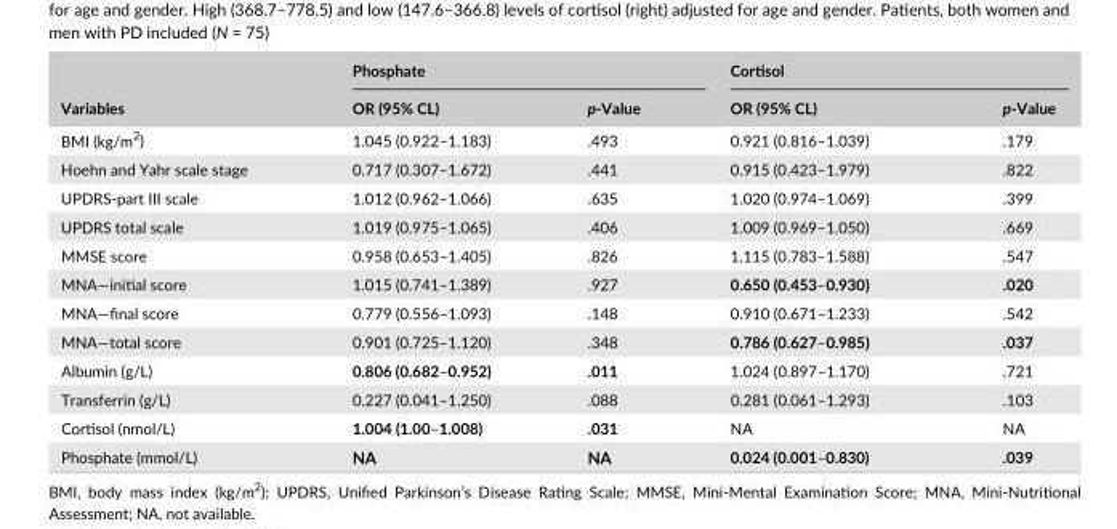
<table><thead><tr><td rowspan="2">Variables</td><td colspan="2">Phosphate</td><td colspan="2">Cortisol</td></tr><tr><td>OR (95% CL)</td><td>p- Value</td><td>OR (95% CL)</td><td>p- Value</td></tr></thead><tbody><tr><td>BMI (kg/m<sup>2</sup>)</td><td>1.045 (0.922–1.183)</td><td>.493</td><td>0.921 (0.816–1.039)</td><td>.179</td></tr><tr><td>Hoehn and Yahr scale stage</td><td>0.717 (0.307–1.672)</td><td>.441</td><td>0.915 (0.423–1.979)</td><td>.822</td></tr><tr><td>UPDRS- part III scale</td><td>1.012 (0.962–1.066)</td><td>.635</td><td>1.020 (0.974–1.069)</td><td>.399</td></tr><tr><td>UPDRS total scale</td><td>1.019 (0.975–1.065)</td><td>.406</td><td>1.009 (0.969–1.050)</td><td>.669</td></tr><tr><td>MMSE score</td><td>0.958 (0.653–1.405)</td><td>.826</td><td>1.115 (0.783–1.588)</td><td>.547</td></tr><tr><td>MNA—initial score</td><td>1.015 (0.741–1.389)</td><td>.927</td><td>0.650 (0.453–0.930)</td><td>.020</td></tr><tr><td>MNA—final score</td><td>0.779 (0.556–1.093)</td><td>.148</td><td>0.910 (0.671–1.233)</td><td>.542</td></tr><tr><td>MNA—total score</td><td>0.901 (0.725–1.120)</td><td>.348</td><td>0.786 (0.627–0.985)</td><td>.037</td></tr><tr><td>Albumin (g/L)</td><td>0.806 (0.682–0.952)</td><td>.011</td><td>1.024 (0.897–1.170)</td><td>.721</td></tr><tr><td>Transferrin (g/L)</td><td>0.227 (0.041–1.250)</td><td>.088</td><td>0.281 (0.061–1.293)</td><td>.103</td></tr><tr><td>Cortisol (nmol/L)</td><td>1.004 (1.00–1.008)</td><td>.031</td><td>NA</td><td>NA</td></tr><tr><td>Phosphate (mmol/L)</td><td>NA</td><td>NA</td><td>0.024 (0.001–0.830)</td><td>.039</td></tr></tbody></table>